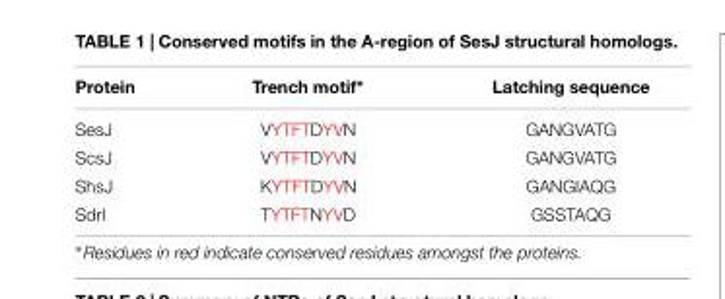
<table><thead><tr><td>Protein</td><td>Trench motif∗</td><td>Latching sequence</td></tr></thead><tbody><tr><td>SesJ</td><td>VYTFTDYVN</td><td>GANGVATG</td></tr><tr><td>ScsJ</td><td>VYTFTDYVN</td><td>GANGVATG</td></tr><tr><td>ShsJ</td><td>KYTFTDYVN</td><td>GANGIAQG</td></tr><tr><td>SdrI</td><td>TYTFTNYVD</td><td>GSSTAQG</td></tr></tbody></table>